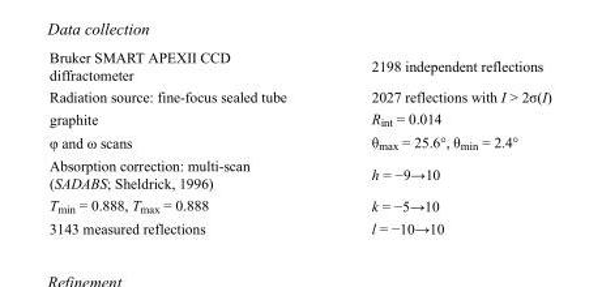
<table><tbody><tr><td>Bruker SMART APEXII CCD diffractometer</td><td>2198 independent reflections</td></tr><tr><td>Radiation source: fine-focus sealed tube</td><td>2027 reflections with I &gt; 2σ(I)</td></tr><tr><td>graphite</td><td>R<sub>int</sub> = 0.014</td></tr><tr><td>φ and ω scans</td><td>θ<sub>max</sub> = 25.6°, θ<sub>min</sub> = 2.4°</td></tr><tr><td>Absorption correction: multi-scan (SADABS; Sheldrick, 1996)</td><td>h = −9→10</td></tr><tr><td>T<sub>min</sub> = 0.888, T<sub>max</sub> = 0.888</td><td>k = −5→10</td></tr><tr><td>3143 measured reflections</td><td>l = −10→10</td></tr></tbody></table>